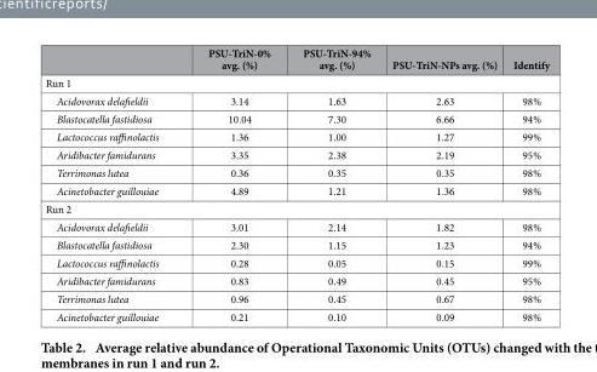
<table><thead><tr><td></td><td>PSU-TriN-0% avg. (%)</td><td>PSU-TriN-94% avg. (%)</td><td>PSU-TriN-NPs avg. (%)</td><td>Identify</td></tr></thead><tbody><tr><td colspan="5">Run 1</td></tr><tr><td>Acidovorax delafieldii</td><td>3.14</td><td>1.63</td><td>2.63</td><td>98%</td></tr><tr><td>Blastocatella fastidiosa</td><td>10.04</td><td>7.30</td><td>6.66</td><td>94%</td></tr><tr><td>Lactococcus raffinolactis</td><td>1.36</td><td>1.00</td><td>1.27</td><td>99%</td></tr><tr><td>Aridibacter famidurans</td><td>3.35</td><td>2.38</td><td>2.19</td><td>95%</td></tr><tr><td>Terrimonas lutea</td><td>0.36</td><td>0.35</td><td>0.35</td><td>98%</td></tr><tr><td>Acinetobacter guillouiae</td><td>4.89</td><td>1.21</td><td>1.36</td><td>98%</td></tr><tr><td colspan="5">Run 2</td></tr><tr><td>Acidovorax delafieldii</td><td>3.01</td><td>2.14</td><td>1.82</td><td>98%</td></tr><tr><td>Blastocatella fastidiosa</td><td>2.30</td><td>1.15</td><td>1.23</td><td>94%</td></tr><tr><td>Lactococcus raffinolactis</td><td>0.28</td><td>0.05</td><td>0.15</td><td>99%</td></tr><tr><td>Aridibacter famidurans</td><td>0.83</td><td>0.49</td><td>0.45</td><td>95%</td></tr><tr><td>Terrimonas lutea</td><td>0.96</td><td>0.45</td><td>0.67</td><td>98%</td></tr><tr><td>Acinetobacter guillouiae</td><td>0.21</td><td>0.10</td><td>0.09</td><td>98%</td></tr></tbody></table>